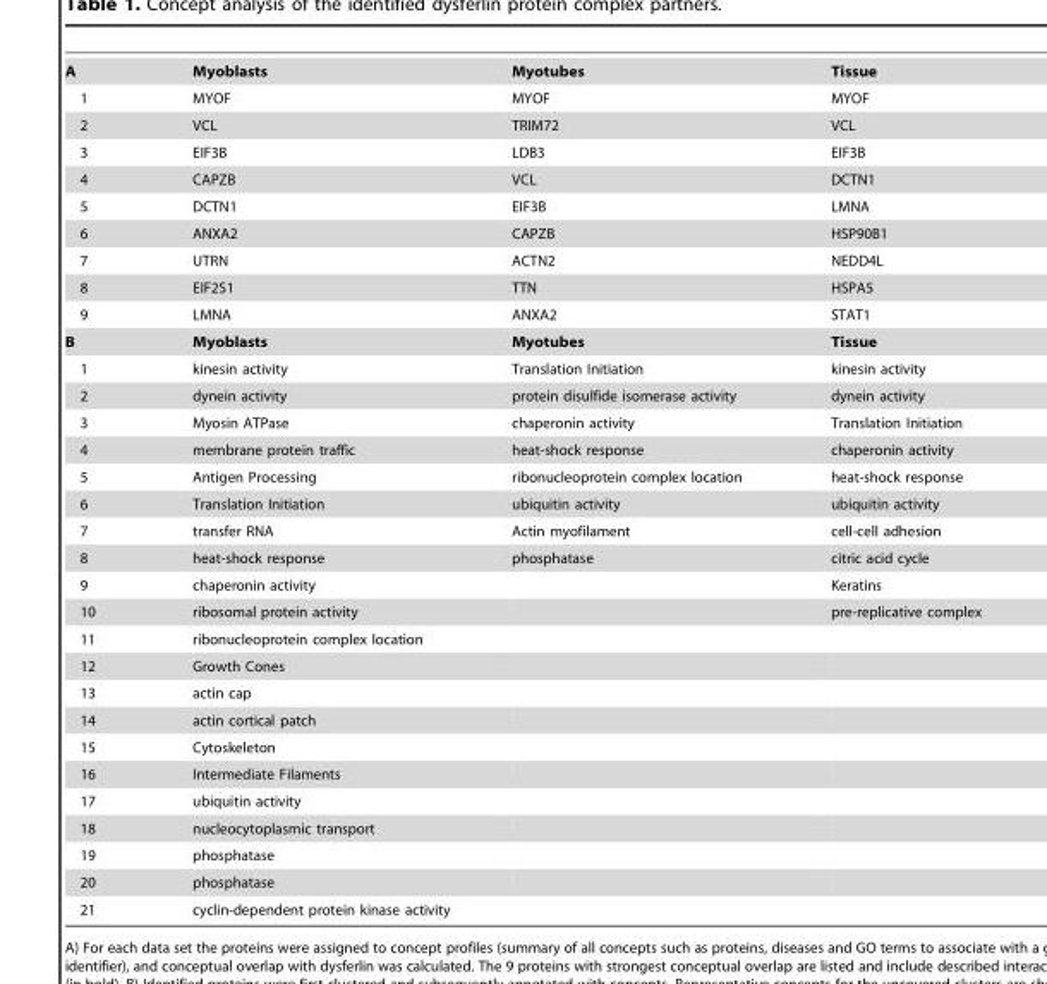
<table><tbody><tr><td>A</td><td>Myoblasts</td><td>Myotubes</td><td>Tissue</td></tr><tr><td>1</td><td>MYOF</td><td>MYOF</td><td>MYOF</td></tr><tr><td>2</td><td>VCL</td><td>TRIM72</td><td>VCL</td></tr><tr><td>3</td><td>EIF3B</td><td>LDB3</td><td>EIF3B</td></tr><tr><td>4</td><td>CAPZB</td><td>VCL</td><td>DCTN1</td></tr><tr><td>5</td><td>DCTN1</td><td>EIF3B</td><td>LMNA</td></tr><tr><td>6</td><td>ANXA2</td><td>CAPZB</td><td>HSP90B1</td></tr><tr><td>7</td><td>UTRN</td><td>ACTN2</td><td>NEDD4L</td></tr><tr><td>8</td><td>EIF2S1</td><td>TTN</td><td>HSPA5</td></tr><tr><td>9</td><td>LMNA</td><td>ANXA2</td><td>STAT1</td></tr><tr><td>B</td><td>Myoblasts</td><td>Myotubes</td><td>Tissue</td></tr><tr><td>1</td><td>kinesin activity</td><td>Translation Initiation</td><td>kinesin activity</td></tr><tr><td>2</td><td>dynein activity</td><td>protein disulfide isomerase activity</td><td>dynein activity</td></tr><tr><td>3</td><td>Myosin ATPase</td><td>chaperonin activity</td><td>Translation Initiation</td></tr><tr><td>4</td><td>membrane protein traffic</td><td>heat-shock response</td><td>chaperonin activity</td></tr><tr><td>5</td><td>Antigen Processing</td><td>ribonucleoprotein complex location</td><td>heat-shock response</td></tr><tr><td>6</td><td>Translation Initiation</td><td>ubiquitin activity</td><td>ubiquitin activity</td></tr><tr><td>7</td><td>transfer RNA</td><td>Actin myofilament</td><td>cell-cell adhesion</td></tr><tr><td>8</td><td>heat-shock response</td><td>phosphatase</td><td>citric acid cycle</td></tr><tr><td>9</td><td>chaperonin activity</td><td></td><td>Keratins</td></tr><tr><td>10</td><td>ribosomal protein activity</td><td></td><td>pre-replicative complex</td></tr><tr><td>11</td><td>ribonucleoprotein complex location</td><td></td><td></td></tr><tr><td>12</td><td>Growth Cones</td><td></td><td></td></tr><tr><td>13</td><td>actin cap</td><td></td><td></td></tr><tr><td>14</td><td>actin cortical patch</td><td></td><td></td></tr><tr><td>15</td><td>Cytoskeleton</td><td></td><td></td></tr><tr><td>16</td><td>Intermediate Filaments</td><td></td><td></td></tr><tr><td>17</td><td>ubiquitin activity</td><td></td><td></td></tr><tr><td>18</td><td>nucleocytoplasmic transport</td><td></td><td></td></tr><tr><td>19</td><td>phosphatase</td><td></td><td></td></tr><tr><td>20</td><td>phosphatase</td><td></td><td></td></tr><tr><td>21</td><td>cyclin-dependent protein kinase activity</td><td></td><td></td></tr></tbody></table>